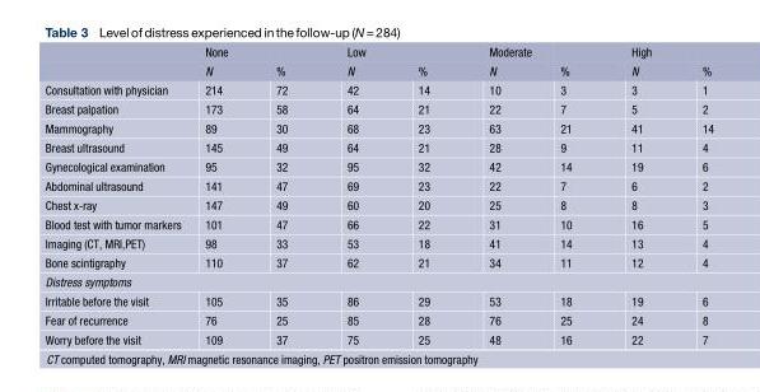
<table><thead><tr><td rowspan="2"></td><td rowspan="2">None N</td><td rowspan="2">%</td><td rowspan="2">Low N</td><td rowspan="2">%</td><td rowspan="2">Moderate N</td><td rowspan="2">%</td><td rowspan="2">High N</td><td rowspan="2">%</td></tr><tr></tr></thead><tbody><tr><td>Consultation with physician</td><td>214</td><td>72</td><td>42</td><td>14</td><td>10</td><td>3</td><td>3</td><td>1</td></tr><tr><td>Breast palpation</td><td>173</td><td>58</td><td>64</td><td>21</td><td>22</td><td>7</td><td>5</td><td>2</td></tr><tr><td>Mammography</td><td>89</td><td>30</td><td>68</td><td>23</td><td>63</td><td>21</td><td>41</td><td>14</td></tr><tr><td>Breast ultrasound</td><td>145</td><td>49</td><td>64</td><td>21</td><td>28</td><td>9</td><td>11</td><td>4</td></tr><tr><td>Gynecological examination</td><td>95</td><td>32</td><td>95</td><td>32</td><td>42</td><td>14</td><td>19</td><td>6</td></tr><tr><td>Abdominal ultrasound</td><td>141</td><td>47</td><td>69</td><td>23</td><td>22</td><td>7</td><td>6</td><td>2</td></tr><tr><td>Chest x-ray</td><td>147</td><td>49</td><td>60</td><td>20</td><td>25</td><td>8</td><td>8</td><td>3</td></tr><tr><td>Blood test with tumor markers</td><td>101</td><td>47</td><td>66</td><td>22</td><td>31</td><td>10</td><td>16</td><td>5</td></tr><tr><td>Imaging (CT, MRI,PET)</td><td>98</td><td>33</td><td>53</td><td>18</td><td>41</td><td>14</td><td>13</td><td>4</td></tr><tr><td>Bone scintigraphy</td><td>110</td><td>37</td><td>62</td><td>21</td><td>34</td><td>11</td><td>12</td><td>4</td></tr><tr><td colspan="9">Distress symptoms</td></tr><tr><td>Irritable before the visit</td><td>105</td><td>35</td><td>86</td><td>29</td><td>53</td><td>18</td><td>19</td><td>6</td></tr><tr><td>Fear of recurrence</td><td>76</td><td>25</td><td>85</td><td>28</td><td>76</td><td>25</td><td>24</td><td>8</td></tr><tr><td>Worry before the visit</td><td>109</td><td>37</td><td>75</td><td>25</td><td>48</td><td>16</td><td>22</td><td>7</td></tr></tbody></table>